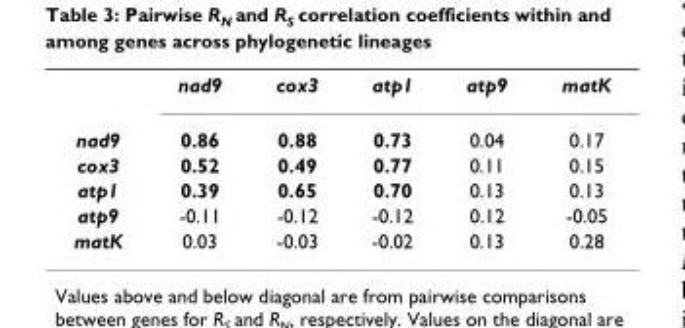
<table><thead><tr><td></td><td>nad9</td><td>cox3</td><td>atp1</td><td>atp9</td><td>matK</td></tr></thead><tbody><tr><td>nad9</td><td>0.86</td><td>0.88</td><td>0.73</td><td>0.04</td><td>0.17</td></tr><tr><td>cox3</td><td>0.52</td><td>0.49</td><td>0.77</td><td>0.11</td><td>0.15</td></tr><tr><td>atp1</td><td>0.39</td><td>0.65</td><td>0.70</td><td>0.13</td><td>0.13</td></tr><tr><td>atp9</td><td>-0.11</td><td>-0.12</td><td>-0.12</td><td>0.12</td><td>-0.05</td></tr><tr><td>matK</td><td>0.03</td><td>-0.03</td><td>-0.02</td><td>0.13</td><td>0.28</td></tr></tbody></table>